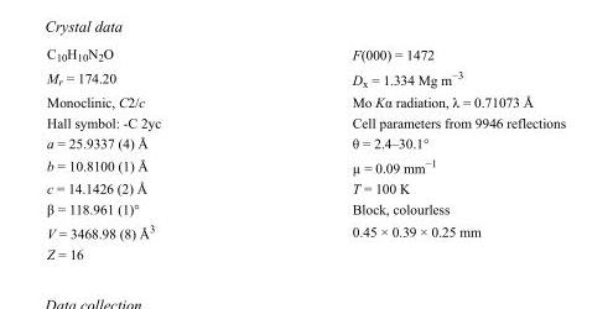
<table><tbody><tr><td>C<sub>10</sub>H<sub>10</sub>N<sub>2</sub>O</td><td>F(000) = 1472</td></tr><tr><td>M<sub>r</sub> = 174.20</td><td>D<sub>x</sub> = 1.334 Mg m<sup>−3</sup></td></tr><tr><td>Monoclinic, C2/c</td><td>Mo Kα radiation, λ = 0.71073 Å</td></tr><tr><td>Hall symbol: -C 2yc</td><td>Cell parameters from 9946 reflections</td></tr><tr><td>a = 25.9337 (4) Å</td><td>θ = 2.4–30.1°</td></tr><tr><td>b = 10.8100 (1) Å</td><td>µ = 0.09 mm<sup>−1</sup></td></tr><tr><td>c = 14.1426 (2) Å</td><td>T = 100 K</td></tr><tr><td>β = 118.961 (1)°</td><td>Block, colourless</td></tr><tr><td>V = 3468.98 (8) Å<sup>3</sup></td><td>0.45 × 0.39 × 0.25 mm</td></tr><tr><td>Z = 16</td><td></td></tr></tbody></table>